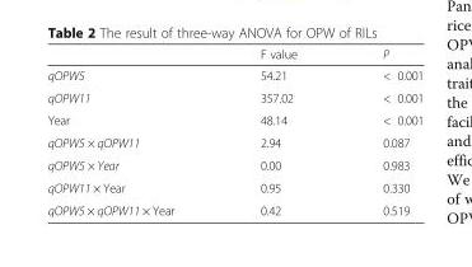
<table><thead><tr><td></td><td>F value</td><td>P</td></tr></thead><tbody><tr><td>qOPW5</td><td>54.21</td><td>&lt; 0.001</td></tr><tr><td>qOPW11</td><td>357.02</td><td>&lt; 0.001</td></tr><tr><td>Year</td><td>48.14</td><td>&lt; 0.001</td></tr><tr><td>qOPW5 × qOPW11</td><td>2.94</td><td>0.087</td></tr><tr><td>qOPW5 × Year</td><td>0.00</td><td>0.983</td></tr><tr><td>qOPW11 × Year</td><td>0.95</td><td>0.330</td></tr><tr><td>qOPW5 × qOPW11 × Year</td><td>0.42</td><td>0.519</td></tr></tbody></table>